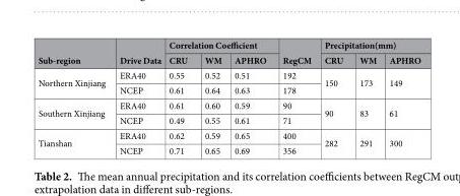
<table><thead><tr><td rowspan="2">Sub-region</td><td rowspan="2">Drive Data</td><td colspan="3">Correlation Coefficient</td><td rowspan="2">RegCM</td><td colspan="3">Precipitation(mm)</td></tr><tr><td>CRU</td><td>WM</td><td>APHRO</td><td>CRU</td><td>WM</td><td>APHRO</td></tr></thead><tbody><tr><td rowspan="2">Northern Xinjiang</td><td>ERA40</td><td>0.55</td><td>0.52</td><td>0.51</td><td>192</td><td rowspan="2">150</td><td rowspan="2">173</td><td rowspan="2">149</td></tr><tr><td>NCEP</td><td>0.61</td><td>0.64</td><td>0.63</td><td>178</td></tr><tr><td rowspan="2">Southern Xinjiang</td><td>ERA40</td><td>0.61</td><td>0.60</td><td>0.59</td><td>90</td><td rowspan="2">90</td><td rowspan="2">83</td><td rowspan="2">61</td></tr><tr><td>NCEP</td><td>0.49</td><td>0.55</td><td>0.61</td><td>71</td></tr><tr><td rowspan="2">Tianshan</td><td>ERA40</td><td>0.62</td><td>0.59</td><td>0.65</td><td>400</td><td rowspan="2">282</td><td rowspan="2">291</td><td rowspan="2">300</td></tr><tr><td>NCEP</td><td>0.71</td><td>0.65</td><td>0.69</td><td>356</td></tr></tbody></table>